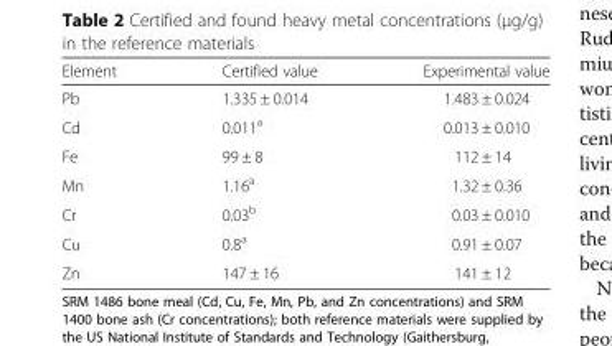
<table><thead><tr><td>Element</td><td>Certified value</td><td>Experimental value</td></tr></thead><tbody><tr><td>Pb</td><td>1.335 ± 0.014</td><td>1.483 ± 0.024</td></tr><tr><td>Cd</td><td>0.011<sup>a</sup></td><td>0.013 ± 0.010</td></tr><tr><td>Fe</td><td>99 ± 8</td><td>112 ± 14</td></tr><tr><td>Mn</td><td>1.16<sup>a</sup></td><td>1.32 ± 0.36</td></tr><tr><td>Cr</td><td>0.03<sup>b</sup></td><td>0.03 ± 0.010</td></tr><tr><td>Cu</td><td>0.8<sup>a</sup></td><td>0.91 ± 0.07</td></tr><tr><td>Zn</td><td>147 ± 16</td><td>141 ± 12</td></tr></tbody></table>